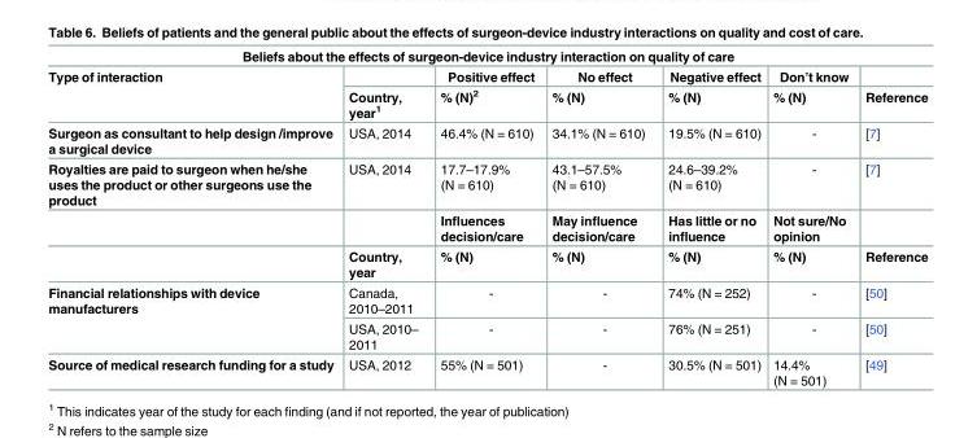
<table><tbody><tr><td colspan="7">Beliefs about the effects of surgeon-device industry interaction on quality of care</td></tr><tr><td rowspan="2">Type of interaction</td><td></td><td>Positive effect</td><td>No effect</td><td>Negative effect</td><td>Don’t know</td><td></td></tr><tr><td>Country, year<sup>1</sup></td><td>% (N)<sup>2</sup></td><td>% (N)</td><td>% (N)</td><td>% (N)</td><td>Reference</td></tr><tr><td>Surgeon as consultant to help design /improve a surgical device</td><td>USA, 2014</td><td>46.4% (N = 610)</td><td>34.1% (N = 610)</td><td>19.5% (N = 610)</td><td>-</td><td>[7]</td></tr><tr><td rowspan="3">Royalties are paid to surgeon when he/she uses the product or other surgeons use the product</td><td>USA, 2014</td><td>17.7–17.9% (N = 610)</td><td>43.1–57.5% (N = 610)</td><td>24.6–39.2% (N = 610)</td><td>-</td><td>[7]</td></tr><tr><td></td><td>Influences decision/care</td><td>May influence decision/care</td><td>Has little or no influence</td><td>Not sure/No opinion</td><td></td></tr><tr><td>Country, year</td><td>% (N)</td><td>% (N)</td><td>% (N)</td><td>% (N)</td><td>Reference</td></tr><tr><td rowspan="2">Financial relationships with device manufacturers</td><td>Canada, 2010–2011</td><td>-</td><td>-</td><td>74% (N = 252)</td><td>-</td><td>[50]</td></tr><tr><td>USA, 2010– 2011</td><td>-</td><td>-</td><td>76% (N = 251)</td><td>-</td><td>[50]</td></tr><tr><td>Source of medical research funding for a study</td><td>USA, 2012</td><td>55% (N = 501)</td><td>-</td><td>30.5% (N = 501)</td><td>14.4% (N = 501)</td><td>[49]</td></tr></tbody></table>